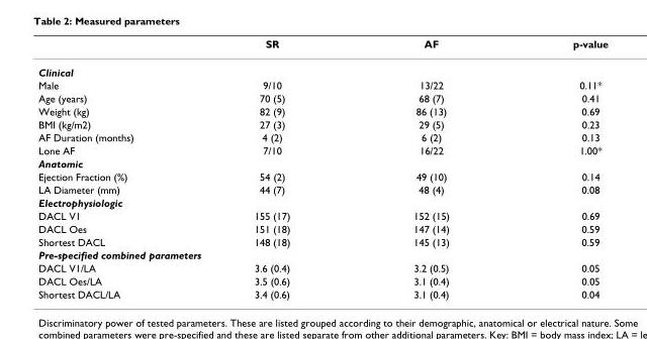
<table><thead><tr><td></td><td>SR</td><td>AF</td><td>p-value</td></tr></thead><tbody><tr><td colspan="4">Clinical</td></tr><tr><td>Male</td><td>9/10</td><td>13/22</td><td>0.11*</td></tr><tr><td>Age (years)</td><td>70 (5)</td><td>68 (7)</td><td>0.41</td></tr><tr><td>Weight (kg)</td><td>82 (9)</td><td>86 (13)</td><td>0.69</td></tr><tr><td>BMI (kg/m2)</td><td>27 (3)</td><td>29 (5)</td><td>0.23</td></tr><tr><td>AF Duration (months)</td><td>4 (2)</td><td>6 (2)</td><td>0.13</td></tr><tr><td>Lone AF</td><td>7/10</td><td>16/22</td><td>1.00*</td></tr><tr><td colspan="4">Anatomic</td></tr><tr><td>Ejection Fraction (%)</td><td>54 (2)</td><td>49 (10)</td><td>0.14</td></tr><tr><td>LA Diameter (mm)</td><td>44 (7)</td><td>48 (4)</td><td>0.08</td></tr><tr><td colspan="4">Electrophysiologic</td></tr><tr><td>DACL V1</td><td>155 (17)</td><td>152 (15)</td><td>0.69</td></tr><tr><td>DACL Oes</td><td>151 (18)</td><td>147 (14)</td><td>0.59</td></tr><tr><td>Shortest DACL</td><td>148 (18)</td><td>145 (13)</td><td>0.59</td></tr><tr><td colspan="4">Pre-specified combined parameters</td></tr><tr><td>DACL V1/LA</td><td>3.6 (0.4)</td><td>3.2 (0.5)</td><td>0.05</td></tr><tr><td>DACL Oes/LA</td><td>3.5 (0.6)</td><td>3.1 (0.4)</td><td>0.05</td></tr><tr><td>Shortest DACL/LA</td><td>3.4 (0.6)</td><td>3.1 (0.4)</td><td>0.04</td></tr></tbody></table>